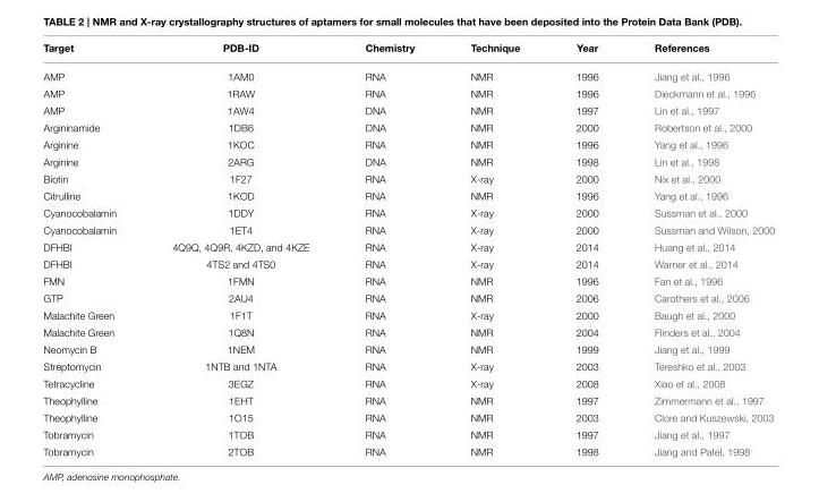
<table><thead><tr><td>Target</td><td>PDB-ID</td><td>Chemistry</td><td>Technique</td><td>Year</td><td>References</td></tr></thead><tbody><tr><td>AMP</td><td>1AM0</td><td>RNA</td><td>NMR</td><td>1996</td><td>Jiang et al., 1996</td></tr><tr><td>AMP</td><td>1RAW</td><td>RNA</td><td>NMR</td><td>1996</td><td>Dieckmann et al., 1996</td></tr><tr><td>AMP</td><td>1AW4</td><td>DNA</td><td>NMR</td><td>1997</td><td>Lin et al., 1997</td></tr><tr><td>Argininamide</td><td>1DB6</td><td>DNA</td><td>NMR</td><td>2000</td><td>Robertson et al., 2000</td></tr><tr><td>Arginine</td><td>1KOC</td><td>RNA</td><td>NMR</td><td>1996</td><td>Yang et al., 1996</td></tr><tr><td>Arginine</td><td>2ARG</td><td>DNA</td><td>NMR</td><td>1998</td><td>Lin et al., 1998</td></tr><tr><td>Biotin</td><td>1F27</td><td>RNA</td><td>X-ray</td><td>2000</td><td>Nix et al., 2000</td></tr><tr><td>Citrulline</td><td>1KOD</td><td>RNA</td><td>NMR</td><td>1996</td><td>Yang et al., 1996</td></tr><tr><td>Cyanocobalamin</td><td>1DDY</td><td>RNA</td><td>X-ray</td><td>2000</td><td>Sussman et al., 2000</td></tr><tr><td>Cyanocobalamin</td><td>1ET4</td><td>RNA</td><td>X-ray</td><td>2000</td><td>Sussman and Wilson, 2000</td></tr><tr><td>DFHBI</td><td>4Q9Q, 4Q9R, 4KZD, and 4KZE</td><td>RNA</td><td>X-ray</td><td>2014</td><td>Huang et al., 2014</td></tr><tr><td>DFHBI</td><td>4TS2 and 4TS0</td><td>RNA</td><td>X-ray</td><td>2014</td><td>Warner et al., 2014</td></tr><tr><td>FMN</td><td>1FMN</td><td>RNA</td><td>NMR</td><td>1996</td><td>Fan et al., 1996</td></tr><tr><td>GTP</td><td>2AU4</td><td>RNA</td><td>NMR</td><td>2006</td><td>Carothers et al., 2006</td></tr><tr><td>Malachite Green</td><td>1F1T</td><td>RNA</td><td>X-ray</td><td>2000</td><td>Baugh et al., 2000</td></tr><tr><td>Malachite Green</td><td>1Q8N</td><td>RNA</td><td>NMR</td><td>2004</td><td>Flinders et al., 2004</td></tr><tr><td>Neomycin B</td><td>1NEM</td><td>RNA</td><td>NMR</td><td>1999</td><td>Jiang et al., 1999</td></tr><tr><td>Streptomycin</td><td>1NTB and 1NTA</td><td>RNA</td><td>X-ray</td><td>2003</td><td>Tereshko et al., 2003</td></tr><tr><td>Tetracycline</td><td>3EGZ</td><td>RNA</td><td>X-ray</td><td>2008</td><td>Xiao et al., 2008</td></tr><tr><td>Theophylline</td><td>1EHT</td><td>RNA</td><td>NMR</td><td>1997</td><td>Zimmermann et al., 1997</td></tr><tr><td>Theophylline</td><td>1O15</td><td>RNA</td><td>NMR</td><td>2003</td><td>Clore and Kuszewski, 2003</td></tr><tr><td>Tobramycin</td><td>1TOB</td><td>RNA</td><td>NMR</td><td>1997</td><td>Jiang et al., 1997</td></tr><tr><td>Tobramycin</td><td>2TOB</td><td>RNA</td><td>NMR</td><td>1998</td><td>Jiang and Patel, 1998</td></tr></tbody></table>